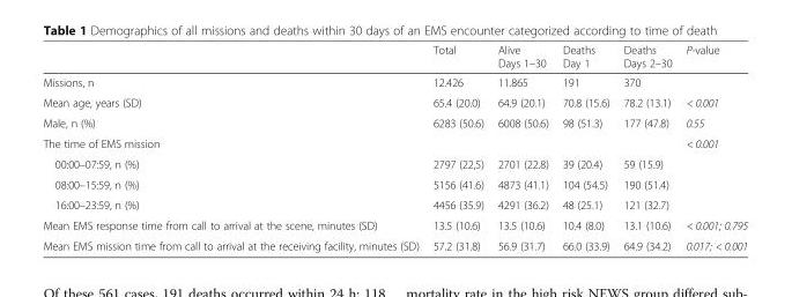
<table><thead><tr><td></td><td>Total</td><td>Alive Days 1–30</td><td>Deaths Day 1</td><td>Deaths Days 2–30</td><td>P-value</td></tr></thead><tbody><tr><td>Missions, n</td><td>12.426</td><td>11.865</td><td>191</td><td>370</td><td></td></tr><tr><td>Mean age, years (SD)</td><td>65.4 (20.0)</td><td>64.9 (20.1)</td><td>70.8 (15.6)</td><td>78.2 (13.1)</td><td>&lt; 0.001</td></tr><tr><td>Male, n (%)</td><td>6283 (50.6)</td><td>6008 (50.6)</td><td>98 (51.3)</td><td>177 (47.8)</td><td>0.55</td></tr><tr><td>The time of EMS mission</td><td></td><td></td><td></td><td></td><td>&lt; 0.001</td></tr><tr><td>00:00–07:59, n (%)</td><td>2797 (22,5)</td><td>2701 (22.8)</td><td>39 (20.4)</td><td>59 (15.9)</td><td></td></tr><tr><td>08:00–15:59, n (%)</td><td>5156 (41.6)</td><td>4873 (41.1)</td><td>104 (54.5)</td><td>190 (51.4)</td><td></td></tr><tr><td>16:00–23:59, n (%)</td><td>4456 (35.9)</td><td>4291 (36.2)</td><td>48 (25.1)</td><td>121 (32.7)</td><td></td></tr><tr><td>Mean EMS response time from call to arrival at the scene, minutes (SD)</td><td>13.5 (10.6)</td><td>13.5 (10.6)</td><td>10.4 (8.0)</td><td>13.1 (10.6)</td><td>&lt; 0.001; 0.795</td></tr><tr><td>Mean EMS mission time from call to arrival at the receiving facility, minutes (SD)</td><td>57.2 (31.8)</td><td>56.9 (31.7)</td><td>66.0 (33.9)</td><td>64.9 (34.2)</td><td>0.017; &lt; 0.001</td></tr></tbody></table>